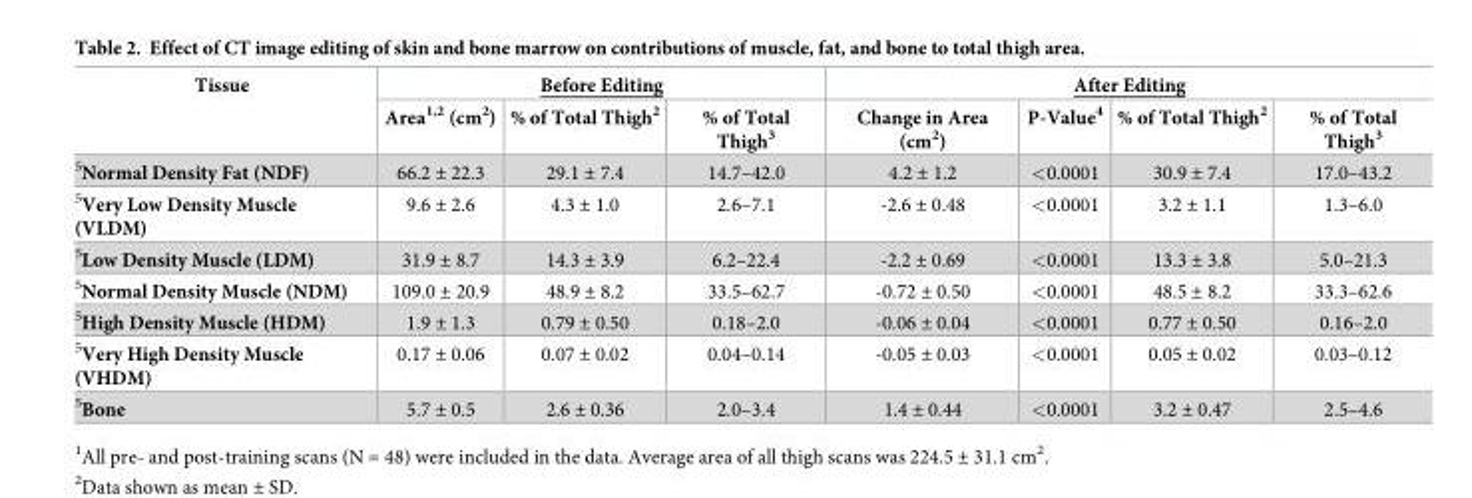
<table><thead><tr><td rowspan="2">Tissue</td><td colspan="3">Before Editing</td><td colspan="4">After Editing</td></tr><tr><td>Area<sup>1,2</sup> (cm<sup>2</sup>)</td><td>% of Total Thigh<sup>2</sup></td><td>% of Total Thigh<sup>3</sup></td><td>Change in Area (cm<sup>2</sup>)</td><td>P-Value<sup>4</sup></td><td>% of Total Thigh<sup>2</sup></td><td>% of Total Thigh<sup>3</sup></td></tr></thead><tbody><tr><td><sup>5</sup>Normal Density Fat (NDF)</td><td>66.2 ± 22.3</td><td>29.1 ± 7.4</td><td>14.7–42.0</td><td>4.2 ± 1.2</td><td>&lt;0.0001</td><td>30.9 ± 7.4</td><td>17.0–43.2</td></tr><tr><td><sup>5</sup>Very Low Density Muscle (VLDM)</td><td>9.6 ± 2.6</td><td>4.3 ± 1.0</td><td>2.6–7.1</td><td>-2.6 ± 0.48</td><td>&lt;0.0001</td><td>3.2 ± 1.1</td><td>1.3–6.0</td></tr><tr><td><sup>5</sup>Low Density Muscle (LDM)</td><td>31.9 ± 8.7</td><td>14.3 ± 3.9</td><td>6.2–22.4</td><td>-2.2 ± 0.69</td><td>&lt;0.0001</td><td>13.3 ± 3.8</td><td>5.0–21.3</td></tr><tr><td><sup>5</sup>Normal Density Muscle (NDM)</td><td>109.0 ± 20.9</td><td>48.9 ± 8.2</td><td>33.5–62.7</td><td>-0.72 ± 0.50</td><td>&lt;0.0001</td><td>48.5 ± 8.2</td><td>33.3–62.6</td></tr><tr><td><sup>5</sup>High Density Muscle (HDM)</td><td>1.9 ± 1.3</td><td>0.79 ± 0.50</td><td>0.18–2.0</td><td>-0.06 ± 0.04</td><td>&lt;0.0001</td><td>0.77 ± 0.50</td><td>0.16–2.0</td></tr><tr><td><sup>5</sup>Very High Density Muscle (VHDM)</td><td>0.17 ± 0.06</td><td>0.07 ± 0.02</td><td>0.04–0.14</td><td>-0.05 ± 0.03</td><td>&lt;0.0001</td><td>0.05 ± 0.02</td><td>0.03–0.12</td></tr><tr><td><sup>5</sup>Bone</td><td>5.7 ± 0.5</td><td>2.6 ± 0.36</td><td>2.0–3.4</td><td>1.4 ± 0.44</td><td>&lt;0.0001</td><td>3.2 ± 0.47</td><td>2.5–4.6</td></tr></tbody></table>